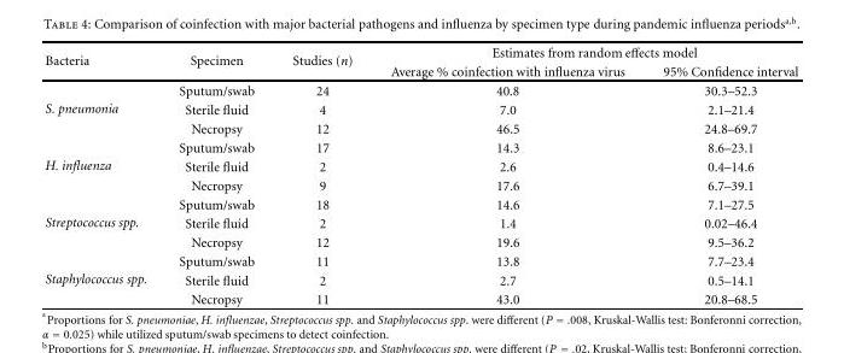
<table><thead><tr><td rowspan="2">Bacteria</td><td rowspan="2">Specimen</td><td rowspan="2">Studies (n)</td><td colspan="2">Estimates from random effects model</td></tr><tr><td>Average % coinfection with influenza virus</td><td>95% Confidence interval</td></tr></thead><tbody><tr><td rowspan="3">S. pneumonia</td><td>Sputum/swab</td><td>24</td><td>40.8</td><td>30.3–52.3</td></tr><tr><td>Sterile fluid</td><td>4</td><td>7.0</td><td>2.1–21.4</td></tr><tr><td>Necropsy</td><td>12</td><td>46.5</td><td>24.8–69.7</td></tr><tr><td rowspan="3">H. influenza</td><td>Sputum/swab</td><td>17</td><td>14.3</td><td>8.6–23.1</td></tr><tr><td>Sterile fluid</td><td>2</td><td>2.6</td><td>0.4–14.6</td></tr><tr><td>Necropsy</td><td>9</td><td>17.6</td><td>6.7–39.1</td></tr><tr><td rowspan="3">Streptococcus spp.</td><td>Sputum/swab</td><td>18</td><td>14.6</td><td>7.1–27.5</td></tr><tr><td>Sterile fluid</td><td>2</td><td>1.4</td><td>0.02–46.4</td></tr><tr><td>Necropsy</td><td>12</td><td>19.6</td><td>9.5–36.2</td></tr><tr><td rowspan="3">Staphylococcus spp.</td><td>Sputum/swab</td><td>11</td><td>13.8</td><td>7.7–23.4</td></tr><tr><td>Sterile fluid</td><td>2</td><td>2.7</td><td>0.5–14.1</td></tr><tr><td>Necropsy</td><td>11</td><td>43.0</td><td>20.8–68.5</td></tr></tbody></table>